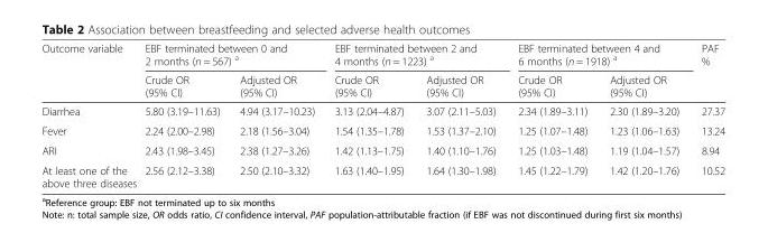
<table><thead><tr><td rowspan="2">Outcome variable</td><td colspan="2">EBF terminated between 0 and 2 months (n = 567) <sup>a</sup></td><td colspan="2">EBF terminated between 2 and 4 months (n = 1223) <sup>a</sup></td><td colspan="2">EBF terminated between 4 and 6 months (n = 1918) <sup>a</sup></td><td rowspan="2">PAF %</td></tr><tr><td>Crude OR (95% CI)</td><td>Adjusted OR (95% CI)</td><td>Crude OR (95% CI)</td><td>Adjusted OR (95% CI)</td><td>Crude OR (95% CI)</td><td>Adjusted OR (95% CI)</td></tr></thead><tbody><tr><td>Diarrhea</td><td>5.80 (3.19–11.63)</td><td>4.94 (3.17–10.23)</td><td>3.13 (2.04–4.87)</td><td>3.07 (2.11–5.03)</td><td>2.34 (1.89–3.11)</td><td>2.30 (1.89–3.20)</td><td>27.37</td></tr><tr><td>Fever</td><td>2.24 (2.00–2.98)</td><td>2.18 (1.56–3.04)</td><td>1.54 (1.35–1.78)</td><td>1.53 (1.37–2.10)</td><td>1.25 (1.07–1.48)</td><td>1.23 (1.06–1.63)</td><td>13.24</td></tr><tr><td>ARI</td><td>2.43 (1.98–3.45)</td><td>2.38 (1.27–3.26)</td><td>1.42 (1.13–1.75)</td><td>1.40 (1.10–1.76)</td><td>1.25 (1.03–1.48)</td><td>1.19 (1.04–1.57)</td><td>8.94</td></tr><tr><td>At least one of the above three diseases</td><td>2.56 (2.12–3.38)</td><td>2.50 (2.10–3.32)</td><td>1.63 (1.40–1.95)</td><td>1.64 (1.30–1.98)</td><td>1.45 (1.22–1.79)</td><td>1.42 (1.20–1.76)</td><td>10.52</td></tr></tbody></table>